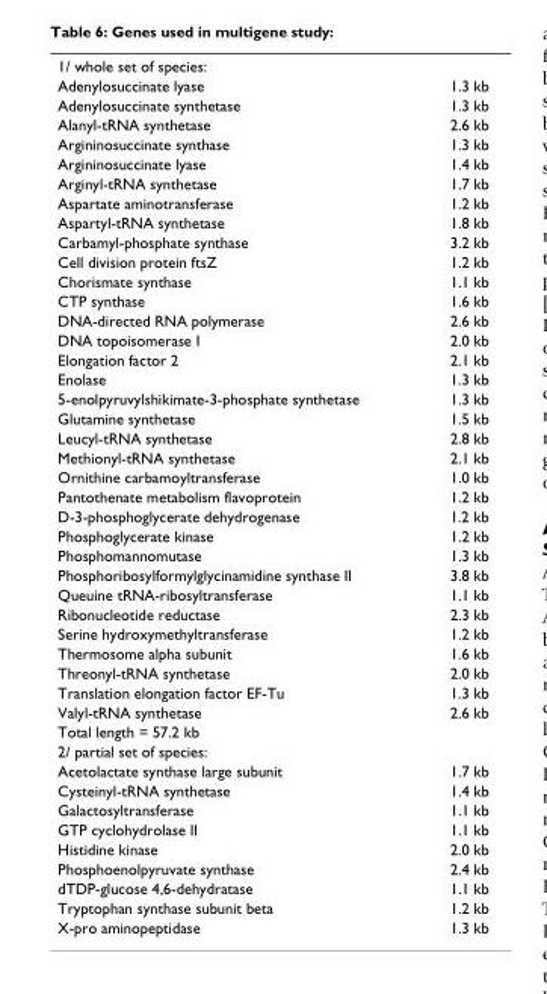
<table><tbody><tr><td colspan="2">1/ whole set of species:</td></tr><tr><td>Adenylosuccinate lyase</td><td>1.3 kb</td></tr><tr><td>Adenylosuccinate synthetase</td><td>1.3 kb</td></tr><tr><td>Alanyl-tRNA synthetase</td><td>2.6 kb</td></tr><tr><td>Argininosuccinate synthase</td><td>1.3 kb</td></tr><tr><td>Argininosuccinate lyase</td><td>1.4 kb</td></tr><tr><td>Arginyl-tRNA synthetase</td><td>1.7 kb</td></tr><tr><td>Aspartate aminotransferase</td><td>1.2 kb</td></tr><tr><td>Aspartyl-tRNA synthetase</td><td>1.8 kb</td></tr><tr><td>Carbamyl-phosphate synthase</td><td>3.2 kb</td></tr><tr><td>Cell division protein ftsZ</td><td>1.2 kb</td></tr><tr><td>Chorismate synthase</td><td>1.1 kb</td></tr><tr><td>CTP synthase</td><td>1.6 kb</td></tr><tr><td>DNA-directed RNA polymerase</td><td>2.6 kb</td></tr><tr><td>DNA topoisomerase I</td><td>2.0 kb</td></tr><tr><td>Elongation factor 2</td><td>2.1 kb</td></tr><tr><td>Enolase</td><td>1.3 kb</td></tr><tr><td>5-enolpyruvylshikimate-3-phosphate synthetase</td><td>1.3 kb</td></tr><tr><td>Glutamine synthetase</td><td>1.5 kb</td></tr><tr><td>Leucyl-tRNA synthetase</td><td>2.8 kb</td></tr><tr><td>Methionyl-tRNA synthetase</td><td>2.1 kb</td></tr><tr><td>Ornithine carbamoyltransferase</td><td>1.0 kb</td></tr><tr><td>Pantothenate metabolism flavoprotein</td><td>1.2 kb</td></tr><tr><td>D-3-phosphoglycerate dehydrogenase</td><td>1.2 kb</td></tr><tr><td>Phosphoglycerate kinase</td><td>1.2 kb</td></tr><tr><td>Phosphomannomutase</td><td>1.3 kb</td></tr><tr><td>Phosphoribosylformylglycinamidine synthase II</td><td>3.8 kb</td></tr><tr><td>Queuine tRNA-ribosyltransferase</td><td>1.1 kb</td></tr><tr><td>Ribonucleotide reductase</td><td>2.3 kb</td></tr><tr><td>Serine hydroxymethyltransferase</td><td>1.2 kb</td></tr><tr><td>Thermosome alpha subunit</td><td>1.6 kb</td></tr><tr><td>Threonyl-tRNA synthetase</td><td>2.0 kb</td></tr><tr><td>Translation elongation factor EF-Tu</td><td>1.3 kb</td></tr><tr><td>Valyl-tRNA synthetase</td><td>2.6 kb</td></tr><tr><td colspan="2">Total length = 57.2 kb</td></tr><tr><td colspan="2">2/ partial set of species:</td></tr><tr><td>Acetolactate synthase large subunit</td><td>1.7 kb</td></tr><tr><td>Cysteinyl-tRNA synthetase</td><td>1.4 kb</td></tr><tr><td>Galactosyltransferase</td><td>1.1 kb</td></tr><tr><td>GTP cyclohydrolase II</td><td>1.1 kb</td></tr><tr><td>Histidine kinase</td><td>2.0 kb</td></tr><tr><td>Phosphoenolpyruvate synthase</td><td>2.4 kb</td></tr><tr><td>dTDP-glucose 4,6-dehydratase</td><td>1.1 kb</td></tr><tr><td>Tryptophan synthase subunit beta</td><td>1.2 kb</td></tr><tr><td>X-pro aminopeptidase</td><td>1.3 kb</td></tr></tbody></table>